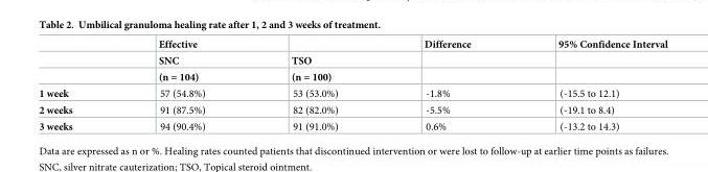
<table><thead><tr><td rowspan="3"></td><td rowspan="3">Effective SNC (n = 104)</td><td rowspan="3">TSO (n = 100)</td><td rowspan="3">Difference</td><td rowspan="3">95% Confidence Interval</td></tr><tr></tr><tr></tr></thead><tbody><tr><td>1 week</td><td>57 (54.8%)</td><td>53 (53.0%)</td><td>-1.8%</td><td>(-15.5 to 12.1)</td></tr><tr><td>2 weeks</td><td>91 (87.5%)</td><td>82 (82.0%)</td><td>-5.5%</td><td>(-19.1 to 8.4)</td></tr><tr><td>3 weeks</td><td>94 (90.4%)</td><td>91 (91.0%)</td><td>0.6%</td><td>(-13.2 to 14.3)</td></tr></tbody></table>